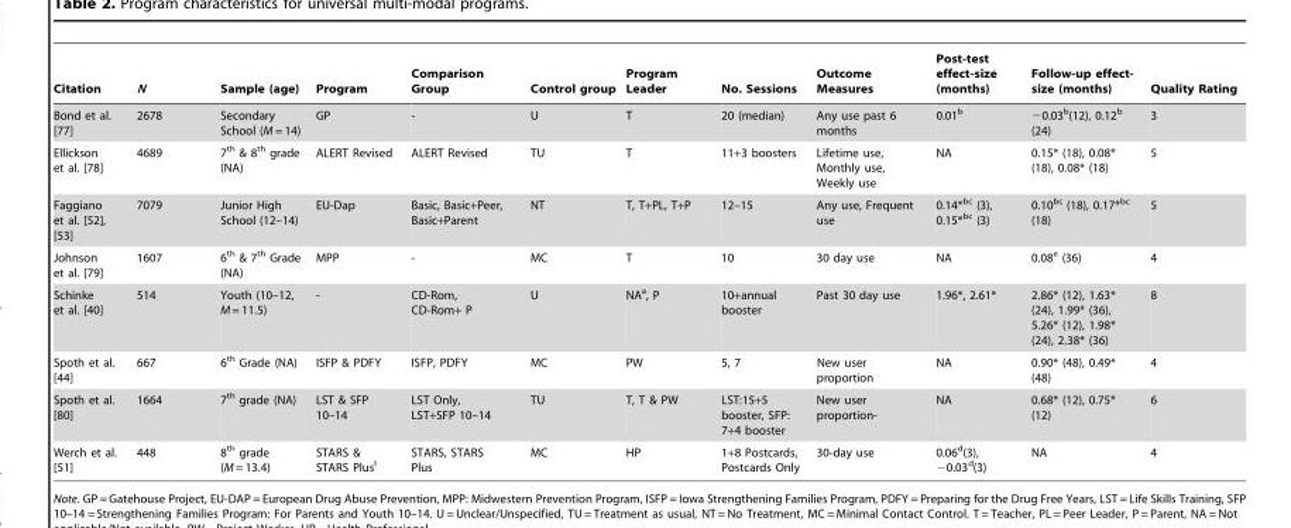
<table><thead><tr><td>Citation</td><td>N</td><td>Sample (age)</td><td>Program</td><td>Comparison Group</td><td>Control group</td><td>Program Leader</td><td>No. Sessions</td><td>Outcome Measures</td><td>Post-test effect-size (months)</td><td>Follow-up effect- size (months)</td><td>Quality Rating</td></tr></thead><tbody><tr><td>Bond et al. [77]</td><td>2678</td><td>Secondary School (M = 14)</td><td>GP</td><td>-</td><td>U</td><td>T</td><td>20 (median)</td><td>Any use past 6 months</td><td>0.01<sup>b</sup></td><td>−0.03<sup>b</sup>(12), 0.12<sup>b</sup> (24)</td><td>3</td></tr><tr><td>Ellickson et al. [78]</td><td>4689</td><td>7<sup>th</sup> &amp; 8<sup>th</sup> grade (NA)</td><td>ALERT Revised</td><td>ALERT Revised</td><td>TU</td><td>T</td><td>11+3 boosters</td><td>Lifetime use, Monthly use, Weekly use</td><td>NA</td><td>0.15* (18), 0.08* (18), 0.08* (18)</td><td>5</td></tr><tr><td>Faggiano et al. [52], [53]</td><td>7079</td><td>Junior High School (12–14)</td><td>EU-Dap</td><td>Basic, Basic+Peer, Basic+Parent</td><td>NT</td><td>T, T+PL, T+P</td><td>12–15</td><td>Any use, Frequent use</td><td>0.14*bc (3), 0.15*bc (3)</td><td>0.10<sup>bc</sup> (18), 0.17*bc (18)</td><td>5</td></tr><tr><td>Johnson et al. [79]</td><td>1607</td><td>6<sup>th</sup> &amp; 7<sup>th</sup> Grade (NA)</td><td>MPP</td><td>-</td><td>MC</td><td>T</td><td>10</td><td>30 day use</td><td>NA</td><td>0.08<sup>e</sup> (36)</td><td>4</td></tr><tr><td>Schinke et al. [40]</td><td>514</td><td>Youth (10–12, M = 11.5)</td><td>-</td><td>CD-Rom, CD-Rom+ P</td><td>U</td><td>NA<sup>a</sup>, P</td><td>10+annual booster</td><td>Past 30 day use</td><td>1.96*, 2.61*</td><td>2.86* (12), 1.63* (24), 1.99* (36), 5.26* (12), 1.98* (24), 2.38* (36)</td><td>8</td></tr><tr><td>Spoth et al. [44]</td><td>667</td><td>6<sup>th</sup> Grade (NA)</td><td>ISFP &amp; PDFY</td><td>ISFP, PDFY</td><td>MC</td><td>PW</td><td>5, 7</td><td>New user proportion</td><td>NA</td><td>0.90* (48), 0.49* (48)</td><td>4</td></tr><tr><td>Spoth et al. [80]</td><td>1664</td><td>7<sup>th</sup> grade (NA)</td><td>LST &amp; SFP 10–14</td><td>LST Only, LST+SFP 10–14</td><td>TU</td><td>T, T &amp; PW</td><td>LST:15+5 booster, SFP: 7+4 booster</td><td>New user proportion-</td><td>NA</td><td>0.68* (12), 0.75* (12)</td><td>6</td></tr><tr><td>Werch et al. [51]</td><td>448</td><td>8<sup>th</sup> grade (M = 13.4)</td><td>STARS &amp; STARS Plus<sup>l</sup></td><td>STARS, STARS Plus</td><td>MC</td><td>HP</td><td>1+8 Postcards, Postcards Only</td><td>30-day use</td><td>0.06<sup>d</sup>(3), −0.03<sup>d</sup>(3)</td><td>NA</td><td>4</td></tr></tbody></table>